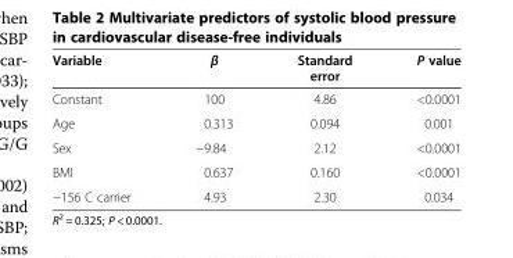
<table><thead><tr><td>Variable</td><td>β</td><td>Standard error</td><td>P value</td></tr></thead><tbody><tr><td>Constant</td><td>100</td><td>4.86</td><td>&lt;0.0001</td></tr><tr><td>Age</td><td>0.313</td><td>0.094</td><td>0.001</td></tr><tr><td>Sex</td><td>−9.84</td><td>2.12</td><td>&lt;0.0001</td></tr><tr><td>BMI</td><td>0.637</td><td>0.160</td><td>&lt;0.0001</td></tr><tr><td>−156 C carrier</td><td>4.93</td><td>2.30</td><td>0.034</td></tr></tbody></table>